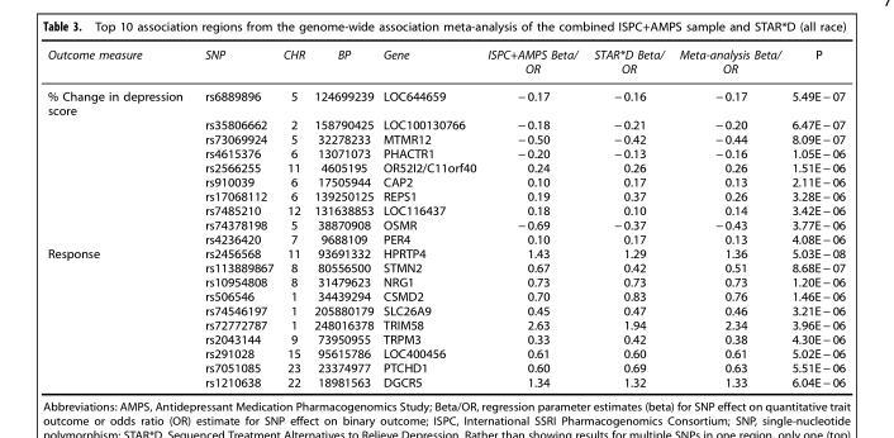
<table><thead><tr><td>Outcome measure</td><td>SNP</td><td>CHR</td><td>BP</td><td>Gene</td><td>ISPC+AMPS Beta/ OR</td><td>STAR*D Beta/ OR</td><td>Meta-analysis Beta/ OR</td><td>P</td></tr></thead><tbody><tr><td rowspan="10">% Change in depression score</td><td>rs6889896</td><td>5</td><td>124699239</td><td>LOC644659</td><td>− 0.17</td><td>− 0.16</td><td>− 0.17</td><td>5.49E − 07</td></tr><tr><td>rs35806662</td><td>2</td><td>158790425</td><td>LOC100130766</td><td>− 0.18</td><td>− 0.21</td><td>− 0.20</td><td>6.47E − 07</td></tr><tr><td>rs73069924</td><td>5</td><td>32278233</td><td>MTMR12</td><td>− 0.50</td><td>− 0.42</td><td>− 0.44</td><td>8.09E − 07</td></tr><tr><td>rs4615376</td><td>6</td><td>13071073</td><td>PHACTR1</td><td>− 0.20</td><td>− 0.13</td><td>− 0.16</td><td>1.05E − 06</td></tr><tr><td>rs2566255</td><td>11</td><td>4605195</td><td>OR52I2/C11orf40</td><td>0.24</td><td>0.26</td><td>0.26</td><td>1.51E − 06</td></tr><tr><td>rs910039</td><td>6</td><td>17505944</td><td>CAP2</td><td>0.10</td><td>0.17</td><td>0.13</td><td>2.11E − 06</td></tr><tr><td>rs17068112</td><td>6</td><td>139250125</td><td>REPS1</td><td>0.19</td><td>0.37</td><td>0.26</td><td>3.28E − 06</td></tr><tr><td>rs7485210</td><td>12</td><td>131638853</td><td>LOC116437</td><td>0.18</td><td>0.10</td><td>0.14</td><td>3.42E − 06</td></tr><tr><td>rs74378198</td><td>5</td><td>38870908</td><td>OSMR</td><td>− 0.69</td><td>− 0.37</td><td>− 0.43</td><td>3.77E − 06</td></tr><tr><td>rs4236420</td><td>7</td><td>9688109</td><td>PER4</td><td>0.10</td><td>0.17</td><td>0.13</td><td>4.08E − 06</td></tr><tr><td rowspan="10">Response</td><td>rs2456568</td><td>11</td><td>93691332</td><td>HPRTP4</td><td>1.43</td><td>1.29</td><td>1.36</td><td>5.03E − 08</td></tr><tr><td>rs113889867</td><td>8</td><td>80556500</td><td>STMN2</td><td>0.67</td><td>0.42</td><td>0.51</td><td>8.68E − 07</td></tr><tr><td>rs10954808</td><td>8</td><td>31479623</td><td>NRG1</td><td>0.73</td><td>0.73</td><td>0.73</td><td>1.20E − 06</td></tr><tr><td>rs506546</td><td>1</td><td>34439294</td><td>CSMD2</td><td>0.70</td><td>0.83</td><td>0.76</td><td>1.46E − 06</td></tr><tr><td>rs74546197</td><td>1</td><td>205880179</td><td>SLC26A9</td><td>0.45</td><td>0.47</td><td>0.46</td><td>3.21E − 06</td></tr><tr><td>rs72772787</td><td>1</td><td>248016378</td><td>TRIM58</td><td>2.63</td><td>1.94</td><td>2.34</td><td>3.96E − 06</td></tr><tr><td>rs2043144</td><td>9</td><td>73950955</td><td>TRPM3</td><td>0.33</td><td>0.42</td><td>0.38</td><td>4.30E − 06</td></tr><tr><td>rs291028</td><td>15</td><td>95615786</td><td>LOC400456</td><td>0.61</td><td>0.60</td><td>0.61</td><td>5.02E − 06</td></tr><tr><td>rs7051085</td><td>23</td><td>23374977</td><td>PTCHD1</td><td>0.60</td><td>0.69</td><td>0.63</td><td>5.51E − 06</td></tr><tr><td>rs1210638</td><td>22</td><td>18981563</td><td>DGCR5</td><td>1.34</td><td>1.32</td><td>1.33</td><td>6.04E − 06</td></tr></tbody></table>